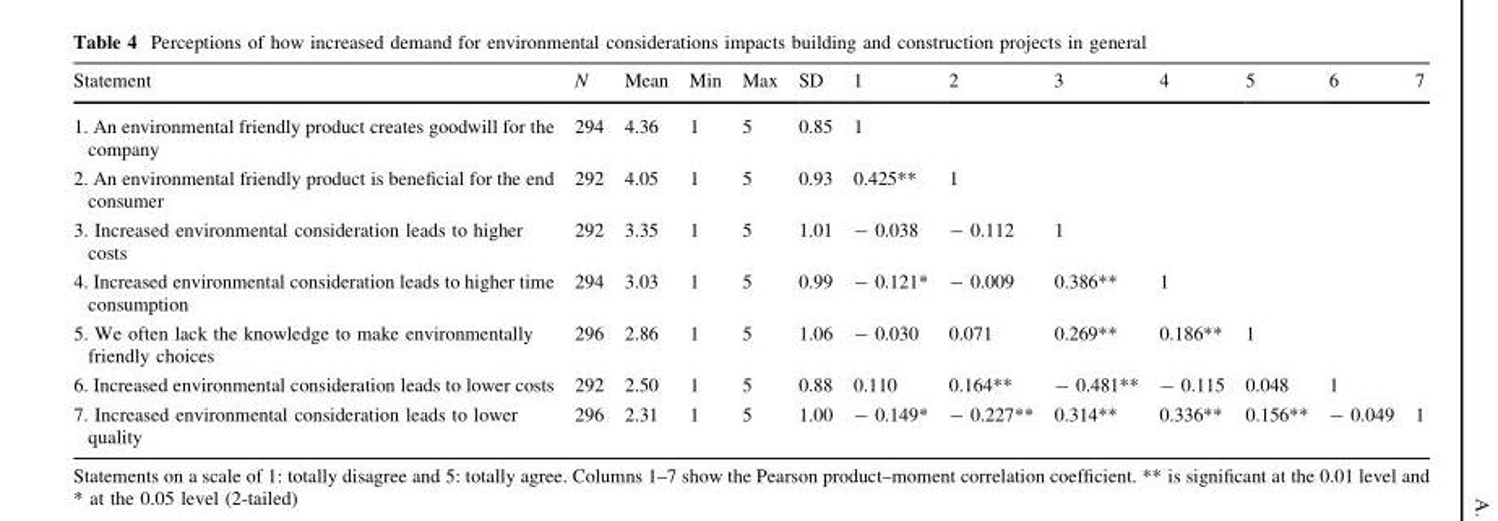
<table><thead><tr><td>Statement</td><td>N</td><td>Mean</td><td>Min</td><td>Max</td><td>SD</td><td>1</td><td>2</td><td>3</td><td>4</td><td>5</td><td>6</td><td>7</td></tr></thead><tbody><tr><td>1. An environmental friendly product creates goodwill for the company</td><td>294</td><td>4.36</td><td>1</td><td>5</td><td>0.85</td><td>1</td><td></td><td></td><td></td><td></td><td></td><td></td></tr><tr><td>2. An environmental friendly product is beneficial for the end consumer</td><td>292</td><td>4.05</td><td>1</td><td>5</td><td>0.93</td><td>0.425**</td><td>1</td><td></td><td></td><td></td><td></td><td></td></tr><tr><td>3. Increased environmental consideration leads to higher costs</td><td>292</td><td>3.35</td><td>1</td><td>5</td><td>1.01</td><td>- 0.038</td><td>- 0.112</td><td>1</td><td></td><td></td><td></td><td></td></tr><tr><td>4. Increased environmental consideration leads to higher time consumption</td><td>294</td><td>3.03</td><td>1</td><td>5</td><td>0.99</td><td>- 0.121*</td><td>- 0.009</td><td>0.386**</td><td>1</td><td></td><td></td><td></td></tr><tr><td>5. We often lack the knowledge to make environmentally friendly choices</td><td>296</td><td>2.86</td><td>1</td><td>5</td><td>1.06</td><td>- 0.030</td><td>0.071</td><td>0.269**</td><td>0.186**</td><td>1</td><td></td><td></td></tr><tr><td>6. Increased environmental consideration leads to lower costs</td><td>292</td><td>2.50</td><td>1</td><td>5</td><td>0.88</td><td>0.110</td><td>0.164**</td><td>- 0.481**</td><td>- 0.115</td><td>0.048</td><td>1</td><td></td></tr><tr><td>7. Increased environmental consideration leads to lower quality</td><td>296</td><td>2.31</td><td>1</td><td>5</td><td>1.00</td><td>- 0.149*</td><td>- 0.227**</td><td>0.314**</td><td>0.336**</td><td>0.156**</td><td>- 0.049</td><td>1</td></tr></tbody></table>